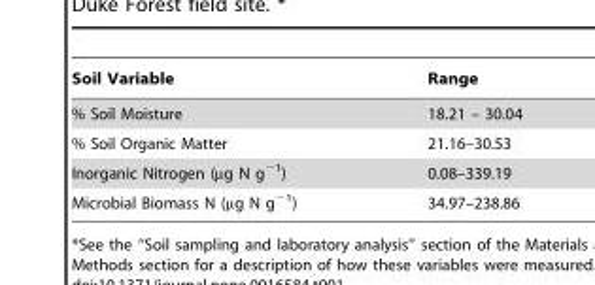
<table><thead><tr><td>Soil Variable</td><td>Range</td></tr></thead><tbody><tr><td>% Soil Moisture</td><td>18.21 – 30.04</td></tr><tr><td>% Soil Organic Matter</td><td>21.16–30.53</td></tr><tr><td>Inorganic Nitrogen (µg N g<sup>−1</sup>)</td><td>0.08–339.19</td></tr><tr><td>Microbial Biomass N (µg N g<sup>−1</sup>)</td><td>34.97–238.86</td></tr></tbody></table>